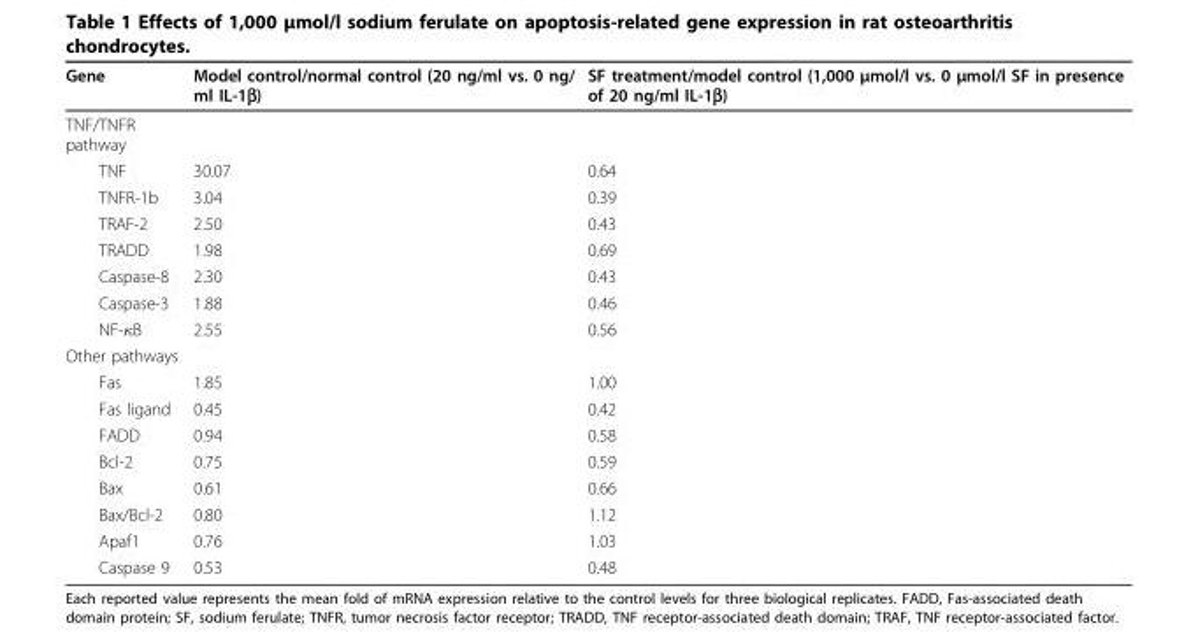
<table><thead><tr><td>Gene</td><td>Model control/normal control (20 ng/ml vs. 0 ng/ ml IL-1β)</td><td>SF treatment/model control (1,000 μmol/l vs. 0 μmol/l SF in presence of 20 ng/ml IL-1β)</td></tr></thead><tbody><tr><td colspan="3">TNF/TNFR pathway</td></tr><tr><td>TNF</td><td>30.07</td><td>0.64</td></tr><tr><td>TNFR-1b</td><td>3.04</td><td>0.39</td></tr><tr><td>TRAF-2</td><td>2.50</td><td>0.43</td></tr><tr><td>TRADD</td><td>1.98</td><td>0.69</td></tr><tr><td>Caspase-8</td><td>2.30</td><td>0.43</td></tr><tr><td>Caspase-3</td><td>1.88</td><td>0.46</td></tr><tr><td>NF-κB</td><td>2.55</td><td>0.56</td></tr><tr><td colspan="3">Other pathways</td></tr><tr><td>Fas</td><td>1.85</td><td>1.00</td></tr><tr><td>Fas ligand</td><td>0.45</td><td>0.42</td></tr><tr><td>FADD</td><td>0.94</td><td>0.58</td></tr><tr><td>Bcl-2</td><td>0.75</td><td>0.59</td></tr><tr><td>Bax</td><td>0.61</td><td>0.66</td></tr><tr><td>Bax/Bcl-2</td><td>0.80</td><td>1.12</td></tr><tr><td>Apaf1</td><td>0.76</td><td>1.03</td></tr><tr><td>Caspase 9</td><td>0.53</td><td>0.48</td></tr></tbody></table>